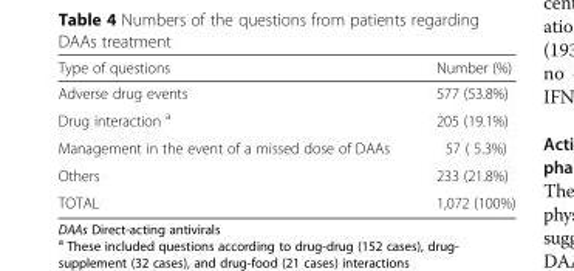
<table><thead><tr><td>Type of questions</td><td>Number (%)</td></tr></thead><tbody><tr><td>Adverse drug events</td><td>577 (53.8%)</td></tr><tr><td>Drug interaction <sup>a</sup></td><td>205 (19.1%)</td></tr><tr><td>Management in the event of a missed dose of DAAs</td><td>57 ( 5.3%)</td></tr><tr><td>Others</td><td>233 (21.8%)</td></tr><tr><td>TOTAL</td><td>1,072 (100%)</td></tr></tbody></table>